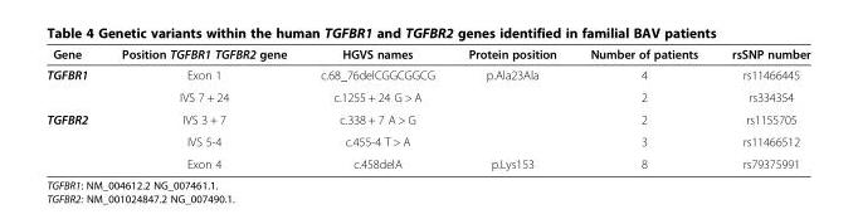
<table><thead><tr><td>Gene</td><td>Position TGFBR1 TGFBR2 gene</td><td>HGVS names</td><td>Protein position</td><td>Number of patients</td><td>rsSNP number</td></tr></thead><tbody><tr><td rowspan="2">TGFBR1</td><td>Exon 1</td><td>c.68_76delCGGCGGCG</td><td>p.Ala23Ala</td><td>4</td><td>rs11466445</td></tr><tr><td>IVS 7 + 24</td><td>c.1255 + 24 G &gt; A</td><td></td><td>2</td><td>rs334354</td></tr><tr><td rowspan="3">TGFBR2</td><td>IVS 3 + 7</td><td>c.338 + 7 A &gt; G</td><td></td><td>2</td><td>rs1155705</td></tr><tr><td>IVS 5-4</td><td>c.455-4 T &gt; A</td><td></td><td>3</td><td>rs11466512</td></tr><tr><td>Exon 4</td><td>c.458delA</td><td>p.Lys153</td><td>8</td><td>rs79375991</td></tr></tbody></table>